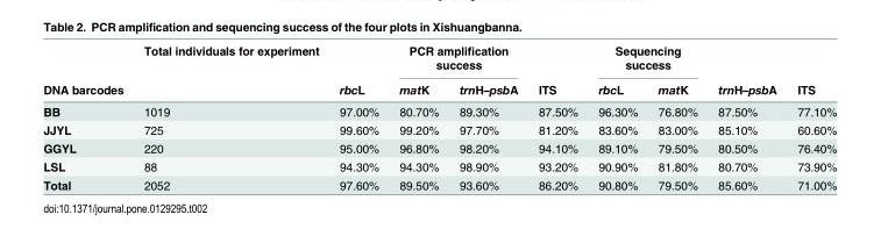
<table><thead><tr><td rowspan="2">DNA barcodes</td><td rowspan="2">Total individuals for experiment</td><td rowspan="2">rbcL</td><td colspan="2">PCR amplification success</td><td rowspan="2">ITS</td><td colspan="2">Sequencing success</td><td rowspan="2">trnH–psbA</td><td rowspan="2">ITS</td></tr><tr><td>matK</td><td>trnH–psbA</td><td>rbcL</td><td>matK</td></tr></thead><tbody><tr><td>BB</td><td>1019</td><td>97.00%</td><td>80.70%</td><td>89.30%</td><td>87.50%</td><td>96.30%</td><td>76.80%</td><td>87.50%</td><td>77.10%</td></tr><tr><td>JJYL</td><td>725</td><td>99.60%</td><td>99.20%</td><td>97.70%</td><td>81.20%</td><td>83.60%</td><td>83.00%</td><td>85.10%</td><td>60.60%</td></tr><tr><td>GGYL</td><td>220</td><td>95.00%</td><td>96.80%</td><td>98.20%</td><td>94.10%</td><td>89.10%</td><td>79.50%</td><td>80.50%</td><td>76.40%</td></tr><tr><td>LSL</td><td>88</td><td>94.30%</td><td>94.30%</td><td>98.90%</td><td>93.20%</td><td>90.90%</td><td>81.80%</td><td>80.70%</td><td>73.90%</td></tr><tr><td>Total</td><td>2052</td><td>97.60%</td><td>89.50%</td><td>93.60%</td><td>86.20%</td><td>90.80%</td><td>79.50%</td><td>85.60%</td><td>71.00%</td></tr></tbody></table>